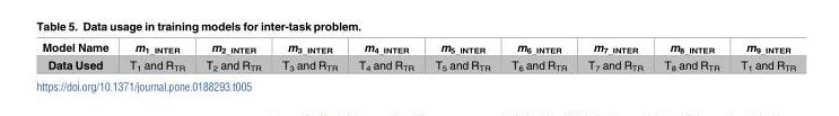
<table><thead><tr><td>Model Name</td><td>m<sub>1_INTER</sub></td><td>m<sub>2_INTER</sub></td><td>m<sub>3_INTER</sub></td><td>m<sub>4_INTER</sub></td><td>m<sub>5_INTER</sub></td><td>m<sub>6_INTER</sub></td><td>m<sub>7_INTER</sub></td><td>m<sub>8_INTER</sub></td><td>m<sub>9_INTER</sub></td></tr></thead><tbody><tr><td>Data Used</td><td>T<sub>1</sub> and R<sub>TR</sub></td><td>T<sub>2</sub> and R<sub>TR</sub></td><td>T<sub>3</sub> and R<sub>TR</sub></td><td>T<sub>4</sub> and R<sub>TR</sub></td><td>T<sub>5</sub> and R<sub>TR</sub></td><td>T<sub>6</sub> and R<sub>TR</sub></td><td>T<sub>7</sub> and R<sub>TR</sub></td><td>T<sub>8</sub> and R<sub>TR</sub></td><td>T<sub>1</sub> and R<sub>TR</sub></td></tr></tbody></table>